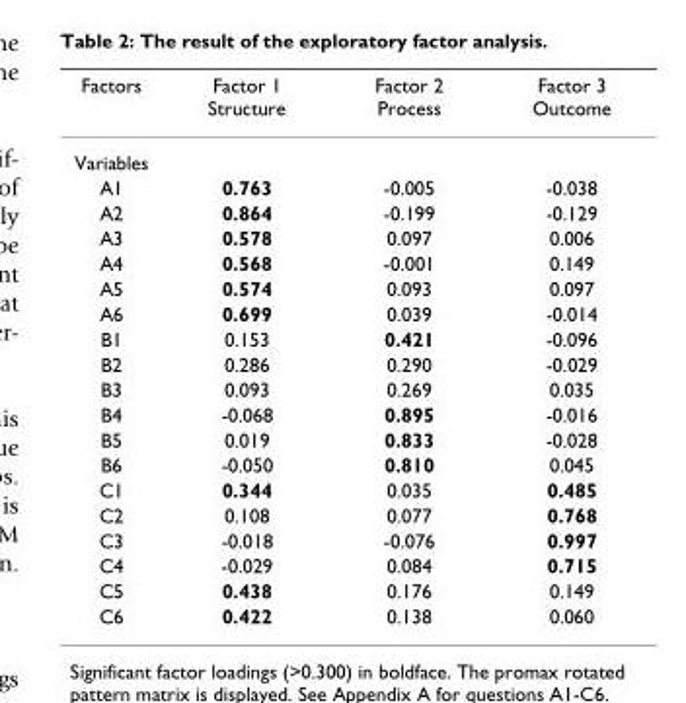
<table><thead><tr><td>Factors</td><td>Factor 1 Structure</td><td>Factor 2 Process</td><td>Factor 3 Outcome</td></tr></thead><tbody><tr><td colspan="4">Variables</td></tr><tr><td>A1</td><td>0.763</td><td>-0.005</td><td>-0.038</td></tr><tr><td>A2</td><td>0.864</td><td>-0.199</td><td>-0.129</td></tr><tr><td>A3</td><td>0.578</td><td>0.097</td><td>0.006</td></tr><tr><td>A4</td><td>0.568</td><td>-0.001</td><td>0.149</td></tr><tr><td>A5</td><td>0.574</td><td>0.093</td><td>0.097</td></tr><tr><td>A6</td><td>0.699</td><td>0.039</td><td>-0.014</td></tr><tr><td>B1</td><td>0.153</td><td>0.421</td><td>-0.096</td></tr><tr><td>B2</td><td>0.286</td><td>0.290</td><td>-0.029</td></tr><tr><td>B3</td><td>0.093</td><td>0.269</td><td>0.035</td></tr><tr><td>B4</td><td>-0.068</td><td>0.895</td><td>-0.016</td></tr><tr><td>B5</td><td>0.019</td><td>0.833</td><td>-0.028</td></tr><tr><td>B6</td><td>-0.050</td><td>0.810</td><td>0.045</td></tr><tr><td>C1</td><td>0.344</td><td>0.035</td><td>0.485</td></tr><tr><td>C2</td><td>0.108</td><td>0.077</td><td>0.768</td></tr><tr><td>C3</td><td>-0.018</td><td>-0.076</td><td>0.997</td></tr><tr><td>C4</td><td>-0.029</td><td>0.084</td><td>0.715</td></tr><tr><td>C5</td><td>0.438</td><td>0.176</td><td>0.149</td></tr><tr><td>C6</td><td>0.422</td><td>0.138</td><td>0.060</td></tr></tbody></table>